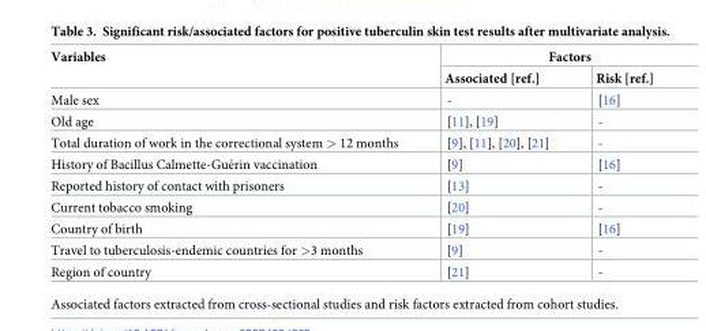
<table><thead><tr><td rowspan="2">Variables</td><td colspan="2">Factors</td></tr><tr><td>Associated [ref.]</td><td>Risk [ref.]</td></tr></thead><tbody><tr><td>Male sex</td><td>-</td><td>[16]</td></tr><tr><td>Old age</td><td>[11], [19]</td><td>-</td></tr><tr><td>Total duration of work in the correctional system &gt; 12 months</td><td>[9], [11], [20], [21]</td><td>-</td></tr><tr><td>History of Bacillus Calmette-Gue´rin vaccination</td><td>[9]</td><td>[16]</td></tr><tr><td>Reported history of contact with prisoners</td><td>[13]</td><td>-</td></tr><tr><td>Current tobacco smoking</td><td>[20]</td><td>-</td></tr><tr><td>Country of birth</td><td>[19]</td><td>[16]</td></tr><tr><td>Travel to tuberculosis-endemic countries for &gt;3 months</td><td>[9]</td><td>-</td></tr><tr><td>Region of country</td><td>[21]</td><td>-</td></tr></tbody></table>